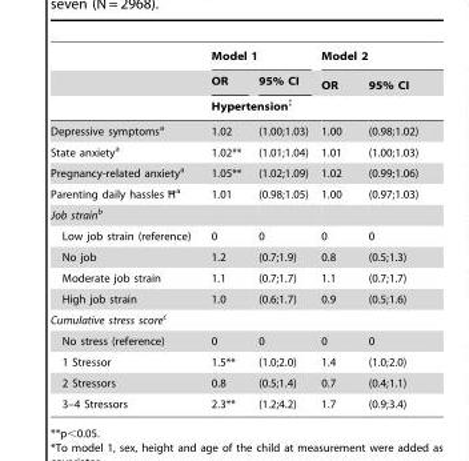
<table><thead><tr><td rowspan="3"></td><td colspan="2">Model 1</td><td colspan="2">Model 2</td></tr><tr><td>OR</td><td>95% CI</td><td rowspan="2">OR</td><td rowspan="2">95% CI</td></tr><tr><td colspan="2">Hypertension‡</td></tr></thead><tbody><tr><td>Depressive symptoms<sup>a</sup></td><td>1.02</td><td>(1.00;1.03)</td><td>1.00</td><td>(0.98;1.02)</td></tr><tr><td>State anxiety<sup>a</sup></td><td>1.02**</td><td>(1.01;1.04)</td><td>1.01</td><td>(1.00;1.03)</td></tr><tr><td>Pregnancy-related anxiety<sup>a</sup></td><td>1.05**</td><td>(1.02;1.09)</td><td>1.02</td><td>(0.99;1.06)</td></tr><tr><td>Parenting daily hassles H––a</td><td>1.01</td><td>(0.98;1.05)</td><td>1.00</td><td>(0.97;1.03)</td></tr><tr><td colspan="5">Job strain<sup>b</sup></td></tr><tr><td>Low job strain (reference)</td><td>0</td><td>0</td><td>0</td><td>0</td></tr><tr><td>No job</td><td>1.2</td><td>(0.7;1.9)</td><td>0.8</td><td>(0.5;1.3)</td></tr><tr><td>Moderate job strain</td><td>1.1</td><td>(0.7;1.7)</td><td>1.1</td><td>(0.7;1.7)</td></tr><tr><td>High job strain</td><td>1.0</td><td>(0.6;1.7)</td><td>0.9</td><td>(0.5;1.6)</td></tr><tr><td colspan="5">Cumulative stress score<sup>c</sup></td></tr><tr><td>No stress (reference)</td><td>0</td><td>0</td><td>0</td><td>0</td></tr><tr><td>1 Stressor</td><td>1.5**</td><td>(1.0;2.0)</td><td>1.4</td><td>(1.0;2.0)</td></tr><tr><td>2 Stressors</td><td>0.8</td><td>(0.5;1.4)</td><td>0.7</td><td>(0.4;1.1)</td></tr><tr><td>3–4 Stressors</td><td>2.3**</td><td>(1.2;4.2)</td><td>1.7</td><td>(0.9;3.4)</td></tr></tbody></table>